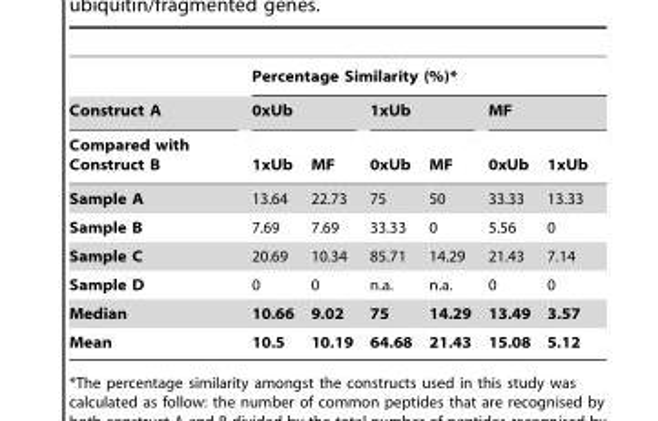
<table><thead><tr><td rowspan="3">Construct A Compared with Construct B</td><td colspan="6">Percentage Similarity (%)*</td></tr><tr><td colspan="2">0xUb</td><td colspan="2">1xUb</td><td colspan="2">MF</td></tr><tr><td>1xUb</td><td>MF</td><td>0xUb</td><td>MF</td><td>0xUb</td><td>1xUb</td></tr></thead><tbody><tr><td>Sample A</td><td>13.64</td><td>22.73</td><td>75</td><td>50</td><td>33.33</td><td>13.33</td></tr><tr><td>Sample B</td><td>7.69</td><td>7.69</td><td>33.33</td><td>0</td><td>5.56</td><td>0</td></tr><tr><td>Sample C</td><td>20.69</td><td>10.34</td><td>85.71</td><td>14.29</td><td>21.43</td><td>7.14</td></tr><tr><td>Sample D</td><td>0</td><td>0</td><td>n.a.</td><td>n.a.</td><td>0</td><td>0</td></tr><tr><td>Median</td><td>10.66</td><td>9.02</td><td>75</td><td>14.29</td><td>13.49</td><td>3.57</td></tr><tr><td>Mean</td><td>10.5</td><td>10.19</td><td>64.68</td><td>21.43</td><td>15.08</td><td>5.12</td></tr></tbody></table>